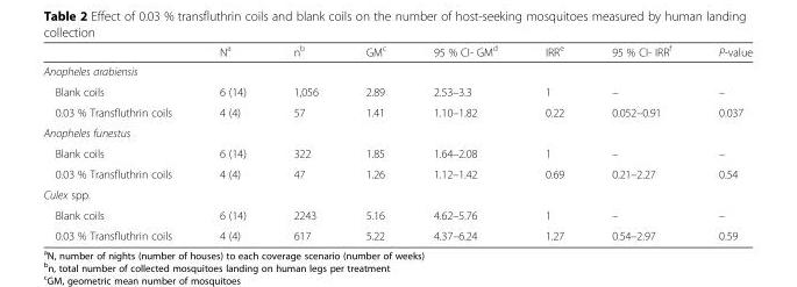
<table><thead><tr><td></td><td>N<sup>a</sup></td><td>n<sup>b</sup></td><td>GM<sup>c</sup></td><td>95 % CI- GM<sup>d</sup></td><td>IRR<sup>e</sup></td><td>95 % CI- IRR<sup>f</sup></td><td>P-value</td></tr></thead><tbody><tr><td colspan="8">Anopheles arabiensis</td></tr><tr><td>Blank coils</td><td>6 (14)</td><td>1,056</td><td>2.89</td><td>2.53–3.3</td><td>1</td><td>–</td><td>–</td></tr><tr><td>0.03 % Transfluthrin coils</td><td>4 (4)</td><td>57</td><td>1.41</td><td>1.10–1.82</td><td>0.22</td><td>0.052–0.91</td><td>0.037</td></tr><tr><td colspan="8">Anopheles funestus</td></tr><tr><td>Blank coils</td><td>6 (14)</td><td>322</td><td>1.85</td><td>1.64–2.08</td><td>1</td><td>–</td><td>–</td></tr><tr><td>0.03 % Transfluthrin coils</td><td>4 (4)</td><td>47</td><td>1.26</td><td>1.12–1.42</td><td>0.69</td><td>0.21–2.27</td><td>0.54</td></tr><tr><td colspan="8">Culex spp.</td></tr><tr><td>Blank coils</td><td>6 (14)</td><td>2243</td><td>5.16</td><td>4.62–5.76</td><td>1</td><td>–</td><td>–</td></tr><tr><td>0.03 % Transfluthrin coils</td><td>4 (4)</td><td>617</td><td>5.22</td><td>4.37–6.24</td><td>1.27</td><td>0.54–2.97</td><td>0.59</td></tr></tbody></table>